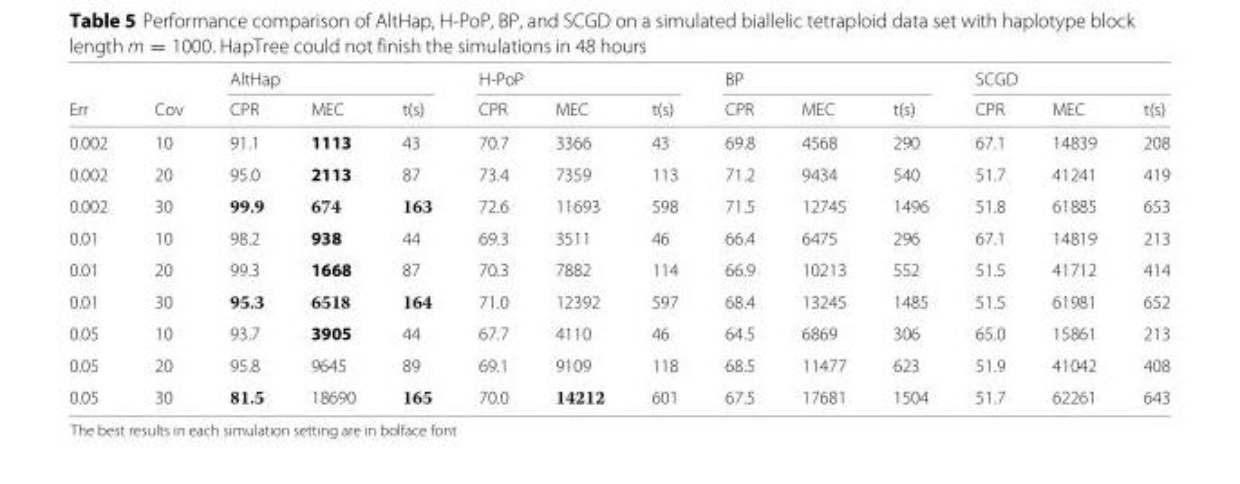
<table><thead><tr><td rowspan="2">Err</td><td rowspan="2">Cov</td><td colspan="3">AltHap</td><td colspan="3">H-PoP</td><td colspan="3">BP</td><td colspan="3">SCGD</td></tr><tr><td>CPR</td><td>MEC</td><td>t(s)</td><td>CPR</td><td>MEC</td><td>t(s)</td><td>CPR</td><td>MEC</td><td>t(s)</td><td>CPR</td><td>MEC</td><td>t(s)</td></tr></thead><tbody><tr><td>0.002</td><td>10</td><td>91.1</td><td>1113</td><td>43</td><td>70.7</td><td>3366</td><td>43</td><td>69.8</td><td>4568</td><td>290</td><td>67.1</td><td>14839</td><td>208</td></tr><tr><td>0.002</td><td>20</td><td>95.0</td><td>2113</td><td>87</td><td>73.4</td><td>7359</td><td>113</td><td>71.2</td><td>9434</td><td>540</td><td>51.7</td><td>41241</td><td>419</td></tr><tr><td>0.002</td><td>30</td><td>99.9</td><td>674</td><td>163</td><td>72.6</td><td>11693</td><td>598</td><td>71.5</td><td>12745</td><td>1496</td><td>51.8</td><td>61885</td><td>653</td></tr><tr><td>0.01</td><td>10</td><td>98.2</td><td>938</td><td>44</td><td>69.3</td><td>3511</td><td>46</td><td>66.4</td><td>6475</td><td>296</td><td>67.1</td><td>14819</td><td>213</td></tr><tr><td>0.01</td><td>20</td><td>99.3</td><td>1668</td><td>87</td><td>70.3</td><td>7882</td><td>114</td><td>66.9</td><td>10213</td><td>552</td><td>51.5</td><td>41712</td><td>414</td></tr><tr><td>0.01</td><td>30</td><td>95.3</td><td>6518</td><td>164</td><td>71.0</td><td>12392</td><td>597</td><td>68.4</td><td>13245</td><td>1485</td><td>51.5</td><td>61981</td><td>652</td></tr><tr><td>0.05</td><td>10</td><td>93.7</td><td>3905</td><td>44</td><td>67.7</td><td>4110</td><td>46</td><td>64.5</td><td>6869</td><td>306</td><td>65.0</td><td>15861</td><td>213</td></tr><tr><td>0.05</td><td>20</td><td>95.8</td><td>9645</td><td>89</td><td>69.1</td><td>9109</td><td>118</td><td>68.5</td><td>11477</td><td>623</td><td>51.9</td><td>41042</td><td>408</td></tr><tr><td>0.05</td><td>30</td><td>81.5</td><td>18690</td><td>165</td><td>70.0</td><td>14212</td><td>601</td><td>67.5</td><td>17681</td><td>1504</td><td>51.7</td><td>62261</td><td>643</td></tr></tbody></table>